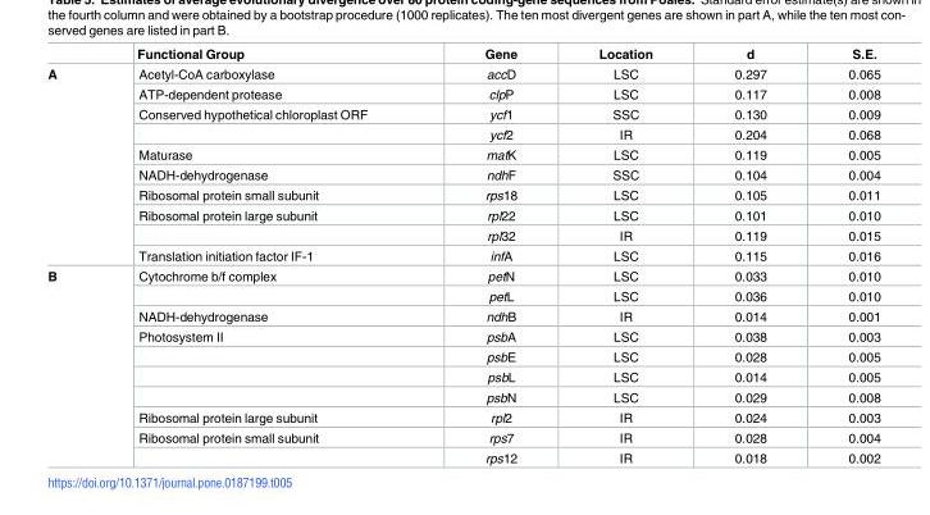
<table><thead><tr><td></td><td>Functional Group</td><td>Gene</td><td>Location</td><td>d</td><td>S.E.</td></tr></thead><tbody><tr><td rowspan="10">A</td><td>Acetyl-CoA carboxylase</td><td>accD</td><td>LSC</td><td>0.297</td><td>0.065</td></tr><tr><td>ATP-dependent protease</td><td>clpP</td><td>LSC</td><td>0.117</td><td>0.008</td></tr><tr><td>Conserved hypothetical chloroplast ORF</td><td>ycf1</td><td>SSC</td><td>0.130</td><td>0.009</td></tr><tr><td></td><td>ycf2</td><td>IR</td><td>0.204</td><td>0.068</td></tr><tr><td>Maturase</td><td>matK</td><td>LSC</td><td>0.119</td><td>0.005</td></tr><tr><td>NADH-dehydrogenase</td><td>ndhF</td><td>SSC</td><td>0.104</td><td>0.004</td></tr><tr><td>Ribosomal protein small subunit</td><td>rps18</td><td>LSC</td><td>0.105</td><td>0.011</td></tr><tr><td>Ribosomal protein large subunit</td><td>rpl22</td><td>LSC</td><td>0.101</td><td>0.010</td></tr><tr><td></td><td>rpl32</td><td>IR</td><td>0.119</td><td>0.015</td></tr><tr><td>Translation initiation factor IF-1</td><td>infA</td><td>LSC</td><td>0.115</td><td>0.016</td></tr><tr><td rowspan="10">B</td><td>Cytochrome b/f complex</td><td>petN</td><td>LSC</td><td>0.033</td><td>0.010</td></tr><tr><td></td><td>petL</td><td>LSC</td><td>0.036</td><td>0.010</td></tr><tr><td>NADH-dehydrogenase</td><td>ndhB</td><td>IR</td><td>0.014</td><td>0.001</td></tr><tr><td>Photosystem II</td><td>psbA</td><td>LSC</td><td>0.038</td><td>0.003</td></tr><tr><td></td><td>psbE</td><td>LSC</td><td>0.028</td><td>0.005</td></tr><tr><td></td><td>psbL</td><td>LSC</td><td>0.014</td><td>0.005</td></tr><tr><td></td><td>psbN</td><td>LSC</td><td>0.029</td><td>0.008</td></tr><tr><td>Ribosomal protein large subunit</td><td>rpl2</td><td>IR</td><td>0.024</td><td>0.003</td></tr><tr><td>Ribosomal protein small subunit</td><td>rps7</td><td>IR</td><td>0.028</td><td>0.004</td></tr><tr><td></td><td>rps12</td><td>IR</td><td>0.018</td><td>0.002</td></tr></tbody></table>